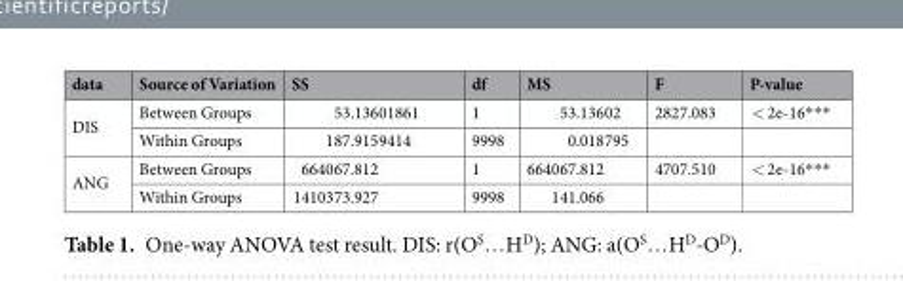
<table><thead><tr><td>data</td><td>Source of Variation</td><td>SS</td><td>df</td><td>MS</td><td>F</td><td>P-value</td></tr></thead><tbody><tr><td rowspan="2">DIS</td><td>Between Groups</td><td>53.13601861</td><td>1</td><td>53.13602</td><td>2827.083</td><td>&lt; 2e-16***</td></tr><tr><td>Within Groups</td><td>187.9159414</td><td>9998</td><td>0.018795</td><td></td><td></td></tr><tr><td rowspan="2">ANG</td><td>Between Groups</td><td>664067.812</td><td>1</td><td>664067.812</td><td>4707.510</td><td>&lt; 2e-16***</td></tr><tr><td>Within Groups</td><td>1410373.927</td><td>9998</td><td>141.066</td><td></td><td></td></tr></tbody></table>